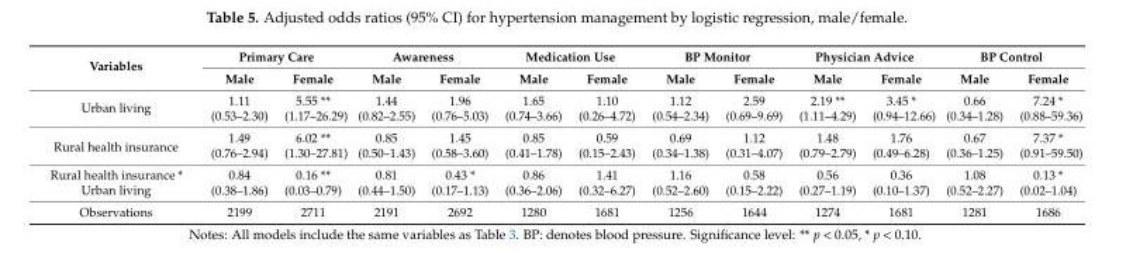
<table><thead><tr><td rowspan="2">Variables</td><td colspan="2">Primary Care</td><td colspan="2">Awareness</td><td colspan="2">Medication Use</td><td colspan="2">BP Monitor</td><td colspan="2">Physician Advice</td><td colspan="2">BP Control</td></tr><tr><td>Male</td><td>Female</td><td>Male</td><td>Female</td><td>Male</td><td>Female</td><td>Male</td><td>Female</td><td>Male</td><td>Female</td><td>Male</td><td>Female</td></tr></thead><tbody><tr><td rowspan="2">Urban living</td><td>1.11</td><td>5.55 **</td><td>1.44</td><td>1.96</td><td>1.65</td><td>1.10</td><td>1.12</td><td>2.59</td><td>2.19 **</td><td>3.45 *</td><td>0.66</td><td>7.24 *</td></tr><tr><td>(0.53–2.30)</td><td>(1.17–26.29)</td><td>(0.82–2.55)</td><td>(0.76–5.03)</td><td>(0.74–3.66)</td><td>(0.26–4.72)</td><td>(0.54–2.34)</td><td>(0.69–9.69)</td><td>(1.11–4.29)</td><td>(0.94–12.66)</td><td>(0.34–1.28)</td><td>(0.88–59.36)</td></tr><tr><td rowspan="2">Rural health insurance</td><td>1.49</td><td>6.02 **</td><td>0.85</td><td>1.45</td><td>0.85</td><td>0.59</td><td>0.69</td><td>1.12</td><td>1.48</td><td>1.76</td><td>0.67</td><td>7.37 *</td></tr><tr><td>(0.76–2.94)</td><td>(1.30–27.81)</td><td>(0.50–1.43)</td><td>(0.58–3.60)</td><td>(0.41–1.78)</td><td>(0.15–2.43)</td><td>(0.34–1.38)</td><td>(0.31–4.07)</td><td>(0.79–2.79)</td><td>(0.49–6.28)</td><td>(0.36–1.25)</td><td>(0.91–59.50)</td></tr><tr><td rowspan="2">Rural health insurance * Urban living</td><td>0.84</td><td>0.16 **</td><td>0.81</td><td>0.43 *</td><td>0.86</td><td>1.41</td><td>1.16</td><td>0.58</td><td>0.56</td><td>0.36</td><td>1.08</td><td>0.13 *</td></tr><tr><td>(0.38–1.86)</td><td>(0.03–0.79)</td><td>(0.44–1.50)</td><td>(0.17–1.13)</td><td>(0.36–2.06)</td><td>(0.32–6.27)</td><td>(0.52–2.60)</td><td>(0.15–2.22)</td><td>(0.27–1.19)</td><td>(0.10–1.37)</td><td>(0.52–2.27)</td><td>(0.02–1.04)</td></tr><tr><td>Observations</td><td>2199</td><td>2711</td><td>2191</td><td>2692</td><td>1280</td><td>1681</td><td>1256</td><td>1644</td><td>1274</td><td>1681</td><td>1281</td><td>1686</td></tr></tbody></table>